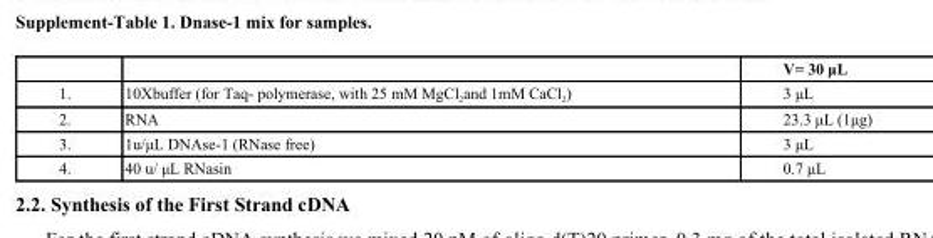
<table><thead><tr><td></td><td></td><td>V= 30 μL</td></tr></thead><tbody><tr><td>1.</td><td>10Хbuffer (for Taq- polymerase, with 25 mM MgCl<sub>2</sub>and 1mM CaCl<sub>2</sub>)</td><td>3 μL</td></tr><tr><td>2.</td><td>RNA</td><td>23.3 μL (1μg)</td></tr><tr><td>3.</td><td>1u/μL DNAse-1 (RNase free)</td><td>3 μL</td></tr><tr><td>4.</td><td>40 u/ μL RNasin</td><td>0.7 μL</td></tr></tbody></table>